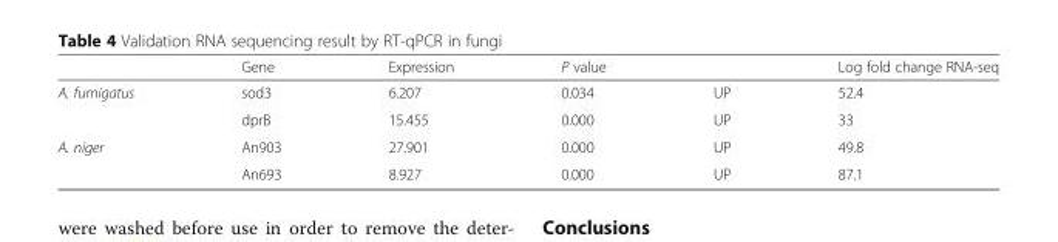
<table><thead><tr><td></td><td>Gene</td><td>Expression</td><td>P value</td><td></td><td>Log fold change RNA-seq</td></tr></thead><tbody><tr><td rowspan="2">A. fumigatus</td><td>sod3</td><td>6.207</td><td>0.034</td><td>UP</td><td>52.4</td></tr><tr><td>dprB</td><td>15.455</td><td>0.000</td><td>UP</td><td>33</td></tr><tr><td rowspan="2">A. niger</td><td>An903</td><td>27.901</td><td>0.000</td><td>UP</td><td>49.8</td></tr><tr><td>An693</td><td>8.927</td><td>0.000</td><td>UP</td><td>87.1</td></tr></tbody></table>